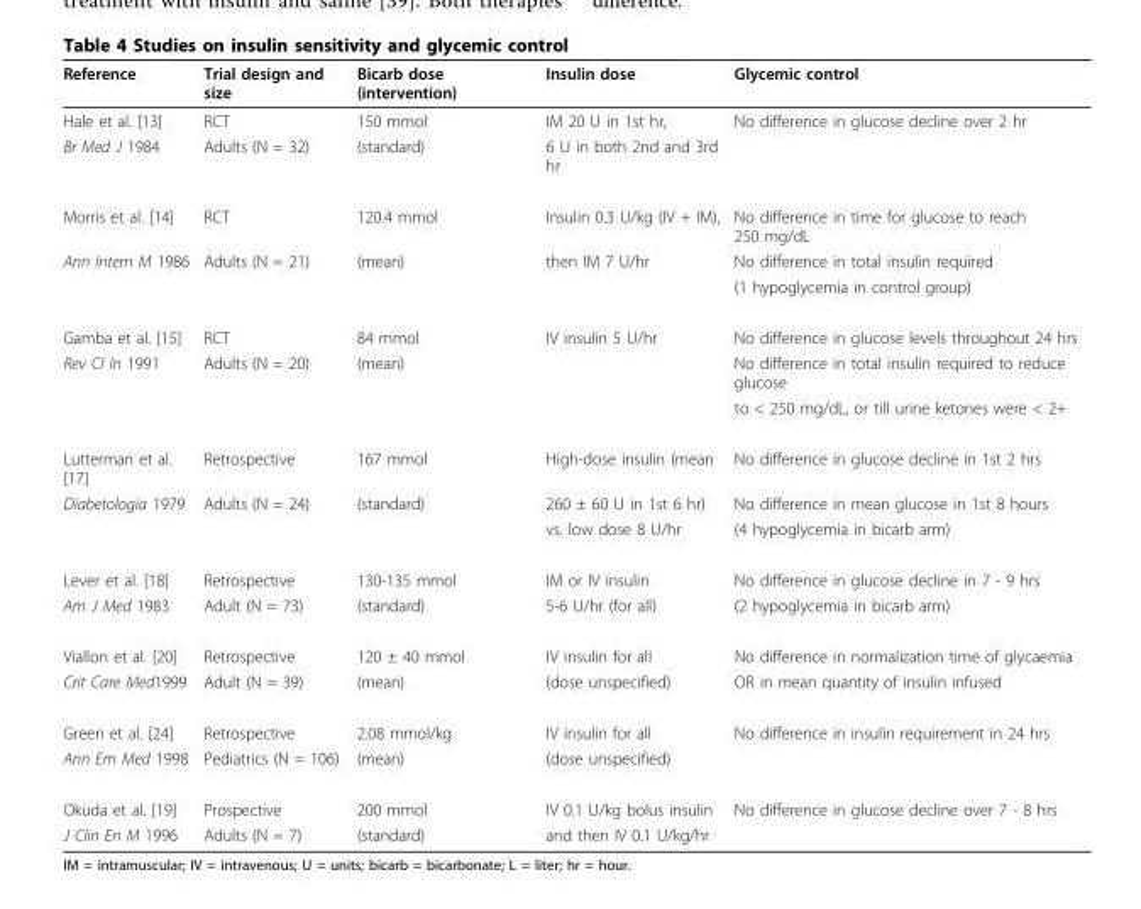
<table><thead><tr><td>Reference</td><td>Trial design and size</td><td>Bicarb dose (intervention)</td><td>Insulin dose</td><td>Glycemic control</td></tr></thead><tbody><tr><td>Hale et al. [13]</td><td>RCT</td><td>150 mmol</td><td>IM 20 U in 1st hr,</td><td>No difference in glucose decline over 2 hr</td></tr><tr><td>Br Med J 1984</td><td>Adults (N = 32)</td><td>(standard)</td><td>6 U in both 2nd and 3rd hr</td><td></td></tr><tr><td>Morris et al. [14]</td><td>RCT</td><td>120.4 mmol</td><td>Insulin 0.3 U/kg (IV + IM),</td><td>No difference in time for glucose to reach 250 mg/dL</td></tr><tr><td rowspan="2">Ann Intern M 1986</td><td>Adults (N = 21)</td><td>(mean)</td><td>then IM 7 U/hr</td><td>No difference in total insulin required</td></tr><tr><td></td><td></td><td></td><td>(1 hypoglycemia in control group)</td></tr><tr><td>Gamba et al. [15]</td><td>RCT</td><td>84 mmol</td><td>IV insulin 5 U/hr</td><td>No difference in glucose levels throughout 24 hrs</td></tr><tr><td rowspan="2">Rev Cl In 1991</td><td>Adults (N = 20)</td><td>(mean)</td><td></td><td>No difference in total insulin required to reduce glucose</td></tr><tr><td></td><td></td><td></td><td>to &lt; 250 mg/dL, or till urine ketones were &lt; 2+</td></tr><tr><td>Lutterman et al. [17]</td><td>Retrospective</td><td>167 mmol</td><td>High-dose insulin (mean</td><td>No difference in glucose decline in 1st 2 hrs</td></tr><tr><td rowspan="2">Diabetologia 1979</td><td>Adults (N = 24)</td><td>(standard)</td><td>260 ± 60 U in 1st 6 hr)</td><td>No difference in mean glucose in 1st 8 hours</td></tr><tr><td></td><td></td><td>vs. low dose 8 U/hr</td><td>(4 hypoglycemia in bicarb arm)</td></tr><tr><td>Lever et al. [18]</td><td>Retrospective</td><td>130-135 mmol</td><td>IM or IV insulin</td><td>No difference in glucose decline in 7 - 9 hrs</td></tr><tr><td>Am J Med 1983</td><td>Adult (N = 73)</td><td>(standard)</td><td>5-6 U/hr (for all)</td><td>(2 hypoglycemia in bicarb arm)</td></tr><tr><td>Viallon et al. [20]</td><td>Retrospective</td><td>120 ± 40 mmol</td><td>IV insulin for all</td><td>No difference in normalization time of glycaemia</td></tr><tr><td>Crit Care Med1999</td><td>Adult (N = 39)</td><td>(mean)</td><td>(dose unspecified)</td><td>OR in mean quantity of insulin infused</td></tr><tr><td>Green et al. [24]</td><td>Retrospective</td><td>2.08 mmol/kg</td><td>IV insulin for all</td><td>No difference in insulin requirement in 24 hrs</td></tr><tr><td>Ann Em Med 1998</td><td>Pediatrics (N = 106)</td><td>(mean)</td><td>(dose unspecified)</td><td></td></tr><tr><td>Okuda et al. [19]</td><td>Prospective</td><td>200 mmol</td><td>IV 0.1 U/kg bolus insulin</td><td>No difference in glucose decline over 7 - 8 hrs</td></tr><tr><td>J Clin En M 1996</td><td>Adults (N = 7)</td><td>(standard)</td><td>and then IV 0.1 U/kg/hr</td><td></td></tr></tbody></table>